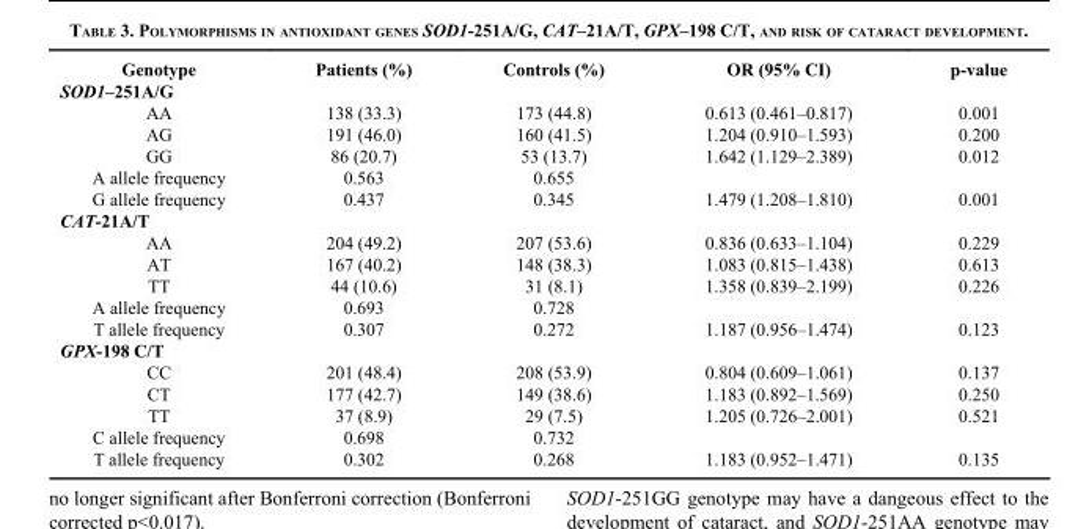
<table><thead><tr><td>Genotype</td><td>Patients (%)</td><td>Controls (%)</td><td>OR (95% CI)</td><td>p-value</td></tr></thead><tbody><tr><td colspan="5">SOD1–251A/G</td></tr><tr><td>AA</td><td>138 (33.3)</td><td>173 (44.8)</td><td>0.613 (0.461–0.817)</td><td>0.001</td></tr><tr><td>AG</td><td>191 (46.0)</td><td>160 (41.5)</td><td>1.204 (0.910–1.593)</td><td>0.200</td></tr><tr><td>GG</td><td>86 (20.7)</td><td>53 (13.7)</td><td>1.642 (1.129–2.389)</td><td>0.012</td></tr><tr><td>A allele frequency</td><td>0.563</td><td>0.655</td><td></td><td></td></tr><tr><td>G allele frequency</td><td>0.437</td><td>0.345</td><td>1.479 (1.208–1.810)</td><td>0.001</td></tr><tr><td colspan="5">CAT-21A/T</td></tr><tr><td>AA</td><td>204 (49.2)</td><td>207 (53.6)</td><td>0.836 (0.633–1.104)</td><td>0.229</td></tr><tr><td>AT</td><td>167 (40.2)</td><td>148 (38.3)</td><td>1.083 (0.815–1.438)</td><td>0.613</td></tr><tr><td>TT</td><td>44 (10.6)</td><td>31 (8.1)</td><td>1.358 (0.839–2.199)</td><td>0.226</td></tr><tr><td>A allele frequency</td><td>0.693</td><td>0.728</td><td></td><td></td></tr><tr><td>T allele frequency</td><td>0.307</td><td>0.272</td><td>1.187 (0.956–1.474)</td><td>0.123</td></tr><tr><td colspan="5">GPX-198 C/T</td></tr><tr><td>CC</td><td>201 (48.4)</td><td>208 (53.9)</td><td>0.804 (0.609–1.061)</td><td>0.137</td></tr><tr><td>CT</td><td>177 (42.7)</td><td>149 (38.6)</td><td>1.183 (0.892–1.569)</td><td>0.250</td></tr><tr><td>TT</td><td>37 (8.9)</td><td>29 (7.5)</td><td>1.205 (0.726–2.001)</td><td>0.521</td></tr><tr><td>C allele frequency</td><td>0.698</td><td>0.732</td><td></td><td></td></tr><tr><td>T allele frequency</td><td>0.302</td><td>0.268</td><td>1.183 (0.952–1.471)</td><td>0.135</td></tr></tbody></table>